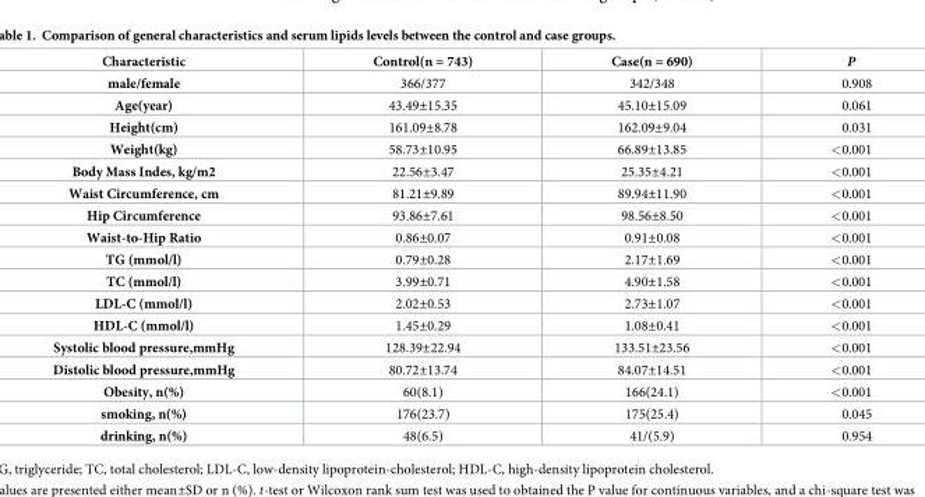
<table><thead><tr><td>Characteristic</td><td>Control(n = 743)</td><td>Case(n = 690)</td><td>P</td></tr></thead><tbody><tr><td>male/female</td><td>366/377</td><td>342/348</td><td>0.908</td></tr><tr><td>Age(year)</td><td>43.49±15.35</td><td>45.10±15.09</td><td>0.061</td></tr><tr><td>Height(cm)</td><td>161.09±8.78</td><td>162.09±9.04</td><td>0.031</td></tr><tr><td>Weight(kg)</td><td>58.73±10.95</td><td>66.89±13.85</td><td>&lt;0.001</td></tr><tr><td>Body Mass Indes, kg/m2</td><td>22.56±3.47</td><td>25.35±4.21</td><td>&lt;0.001</td></tr><tr><td>Waist Circumference, cm</td><td>81.21±9.89</td><td>89.94±11.90</td><td>&lt;0.001</td></tr><tr><td>Hip Circumference</td><td>93.86±7.61</td><td>98.56±8.50</td><td>&lt;0.001</td></tr><tr><td>Waist-to-Hip Ratio</td><td>0.86±0.07</td><td>0.91±0.08</td><td>&lt;0.001</td></tr><tr><td>TG (mmol/l)</td><td>0.79±0.28</td><td>2.17±1.69</td><td>&lt;0.001</td></tr><tr><td>TC (mmol/l)</td><td>3.99±0.71</td><td>4.90±1.58</td><td>&lt;0.001</td></tr><tr><td>LDL-C (mmol/l)</td><td>2.02±0.53</td><td>2.73±1.07</td><td>&lt;0.001</td></tr><tr><td>HDL-C (mmol/l)</td><td>1.45±0.29</td><td>1.08±0.41</td><td>&lt;0.001</td></tr><tr><td>Systolic blood pressure,mmHg</td><td>128.39±22.94</td><td>133.51±23.56</td><td>&lt;0.001</td></tr><tr><td>Distolic blood pressure,mmHg</td><td>80.72±13.74</td><td>84.07±14.51</td><td>&lt;0.001</td></tr><tr><td>Obesity, n(%)</td><td>60(8.1)</td><td>166(24.1)</td><td>&lt;0.001</td></tr><tr><td>smoking, n(%)</td><td>176(23.7)</td><td>175(25.4)</td><td>0.045</td></tr><tr><td>drinking, n(%)</td><td>48(6.5)</td><td>41/(5.9)</td><td>0.954</td></tr></tbody></table>